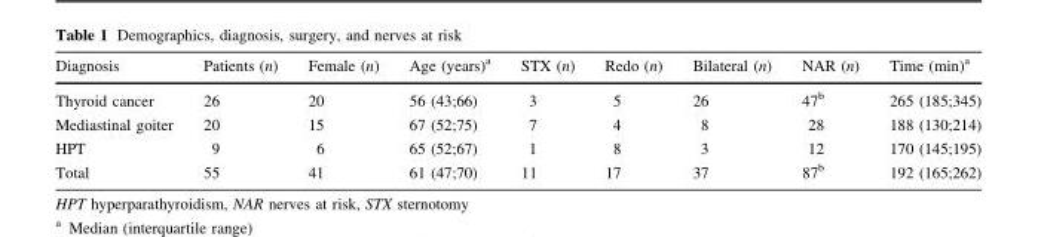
<table><thead><tr><td>Diagnosis</td><td>Patients (n)</td><td>Female (n)</td><td>Age (years)<sup>a</sup></td><td>STX (n)</td><td>Redo (n)</td><td>Bilateral (n)</td><td>NAR (n)</td><td>Time (min)<sup>a</sup></td></tr></thead><tbody><tr><td>Thyroid cancer</td><td>26</td><td>20</td><td>56 (43;66)</td><td>3</td><td>5</td><td>26</td><td>47<sup>b</sup></td><td>265 (185;345)</td></tr><tr><td>Mediastinal goiter</td><td>20</td><td>15</td><td>67 (52;75)</td><td>7</td><td>4</td><td>8</td><td>28</td><td>188 (130;214)</td></tr><tr><td>HPT</td><td>9</td><td>6</td><td>65 (52;67)</td><td>1</td><td>8</td><td>3</td><td>12</td><td>170 (145;195)</td></tr><tr><td>Total</td><td>55</td><td>41</td><td>61 (47;70)</td><td>11</td><td>17</td><td>37</td><td>87<sup>b</sup></td><td>192 (165;262)</td></tr></tbody></table>